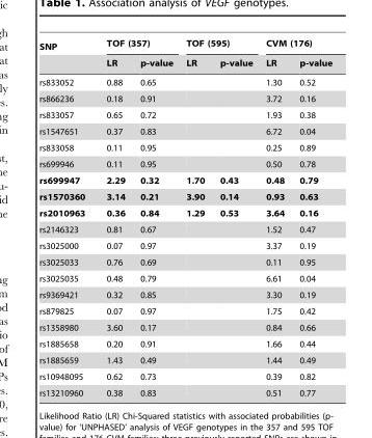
<table><thead><tr><td rowspan="2">SNP</td><td colspan="2">TOF (357)</td><td colspan="2">TOF (595)</td><td colspan="2">CVM (176)</td></tr><tr><td>LR</td><td>p-value</td><td>LR</td><td>p-value</td><td>LR</td><td>p-value</td></tr></thead><tbody><tr><td>rs833052</td><td>0.88</td><td>0.65</td><td></td><td></td><td>1.30</td><td>0.52</td></tr><tr><td>rs866236</td><td>0.18</td><td>0.91</td><td></td><td></td><td>3.72</td><td>0.16</td></tr><tr><td>rs833057</td><td>0.65</td><td>0.72</td><td></td><td></td><td>1.93</td><td>0.38</td></tr><tr><td>rs1547651</td><td>0.37</td><td>0.83</td><td></td><td></td><td>6.72</td><td>0.04</td></tr><tr><td>rs833058</td><td>0.11</td><td>0.95</td><td></td><td></td><td>0.25</td><td>0.89</td></tr><tr><td>rs699946</td><td>0.11</td><td>0.95</td><td></td><td></td><td>0.50</td><td>0.78</td></tr><tr><td>rs699947</td><td>2.29</td><td>0.32</td><td>1.70</td><td>0.43</td><td>0.48</td><td>0.79</td></tr><tr><td>rs1570360</td><td>3.14</td><td>0.21</td><td>3.90</td><td>0.14</td><td>0.93</td><td>0.63</td></tr><tr><td>rs2010963</td><td>0.36</td><td>0.84</td><td>1.29</td><td>0.53</td><td>3.64</td><td>0.16</td></tr><tr><td>rs2146323</td><td>0.81</td><td>0.67</td><td></td><td></td><td>1.52</td><td>0.47</td></tr><tr><td>rs3025000</td><td>0.07</td><td>0.97</td><td></td><td></td><td>3.37</td><td>0.19</td></tr><tr><td>rs3025033</td><td>0.76</td><td>0.69</td><td></td><td></td><td>0.11</td><td>0.95</td></tr><tr><td>rs3025035</td><td>0.48</td><td>0.79</td><td></td><td></td><td>6.61</td><td>0.04</td></tr><tr><td>rs9369421</td><td>0.32</td><td>0.85</td><td></td><td></td><td>3.30</td><td>0.19</td></tr><tr><td>rs879825</td><td>0.07</td><td>0.97</td><td></td><td></td><td>1.75</td><td>0.42</td></tr><tr><td>rs1358980</td><td>3.60</td><td>0.17</td><td></td><td></td><td>0.84</td><td>0.66</td></tr><tr><td>rs1885658</td><td>0.20</td><td>0.91</td><td></td><td></td><td>1.66</td><td>0.44</td></tr><tr><td>rs1885659</td><td>1.43</td><td>0.49</td><td></td><td></td><td>1.44</td><td>0.49</td></tr><tr><td>rs10948095</td><td>0.62</td><td>0.73</td><td></td><td></td><td>0.39</td><td>0.82</td></tr><tr><td>rs13210960</td><td>0.38</td><td>0.83</td><td></td><td></td><td>0.51</td><td>0.77</td></tr></tbody></table>